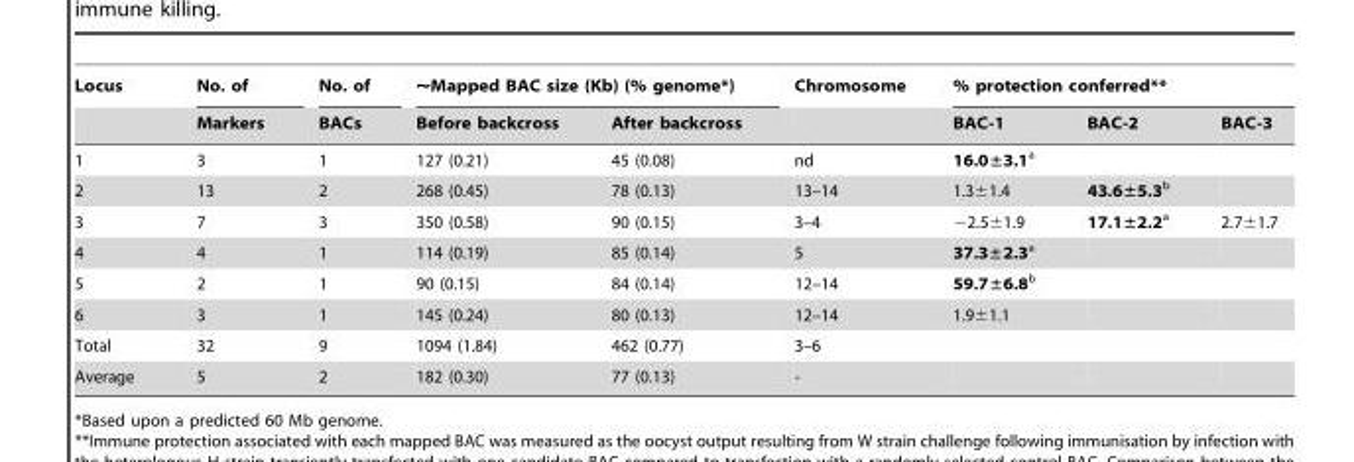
<table><thead><tr><td rowspan="2">Locus</td><td rowspan="2">No. of Markers</td><td rowspan="2">No. of BACs</td><td colspan="2">∼Mapped BAC size (Kb) (% genome*)</td><td rowspan="2">Chromosome</td><td colspan="3">% protection conferred**</td></tr><tr><td>Before backcross</td><td>After backcross</td><td>BAC-1</td><td>BAC-2</td><td>BAC-3</td></tr></thead><tbody><tr><td>1</td><td>3</td><td>1</td><td>127 (0.21)</td><td>45 (0.08)</td><td>nd</td><td>16.0±3.1a</td><td></td><td></td></tr><tr><td>2</td><td>13</td><td>2</td><td>268 (0.45)</td><td>78 (0.13)</td><td>13–14</td><td>1.3±1.4</td><td>43.6±5.3b</td><td></td></tr><tr><td>3</td><td>7</td><td>3</td><td>350 (0.58)</td><td>90 (0.15)</td><td>3–4</td><td>−2.5±1.9</td><td>17.1±2.2a</td><td>2.7±1.7</td></tr><tr><td>4</td><td>4</td><td>1</td><td>114 (0.19)</td><td>85 (0.14)</td><td>5</td><td>37.3±2.3a</td><td></td><td></td></tr><tr><td>5</td><td>2</td><td>1</td><td>90 (0.15)</td><td>84 (0.14)</td><td>12–14</td><td>59.7±6.8b</td><td></td><td></td></tr><tr><td>6</td><td>3</td><td>1</td><td>145 (0.24)</td><td>80 (0.13)</td><td>12–14</td><td>1.9±1.1</td><td></td><td></td></tr><tr><td>Total</td><td>32</td><td>9</td><td>1094 (1.84)</td><td>462 (0.77)</td><td>3–6</td><td></td><td></td><td></td></tr><tr><td>Average</td><td>5</td><td>2</td><td>182 (0.30)</td><td>77 (0.13)</td><td>-</td><td></td><td></td><td></td></tr></tbody></table>